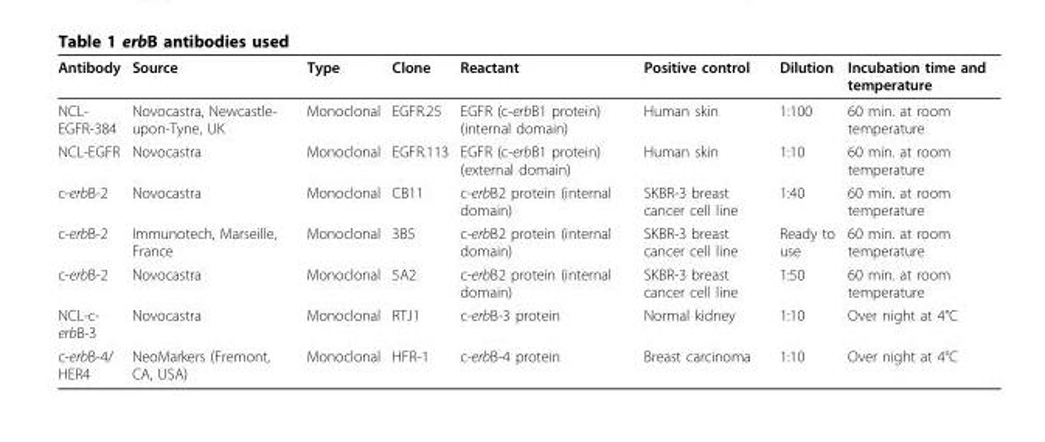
<table><thead><tr><td>Antibody</td><td>Source</td><td>Type</td><td>Clone</td><td>Reactant</td><td>Positive control</td><td>Dilution</td><td>Incubation time and temperature</td></tr></thead><tbody><tr><td>NCL- EGFR-384</td><td>Novocastra, Newcastle- upon-Tyne, UK</td><td>Monoclonal</td><td>EGFR.25</td><td>EGFR (c-erbB1 protein) (internal domain)</td><td>Human skin</td><td>1:100</td><td>60 min. at room temperature</td></tr><tr><td>NCL-EGFR</td><td>Novocastra</td><td>Monoclonal</td><td>EGFR.113</td><td>EGFR (c-erbB1 protein) (external domain)</td><td>Human skin</td><td>1:10</td><td>60 min. at room temperature</td></tr><tr><td>c-erbB-2</td><td>Novocastra</td><td>Monoclonal</td><td>CB11</td><td>c-erbB2 protein (internal domain)</td><td>SKBR-3 breast cancer cell line</td><td>1:40</td><td>60 min. at room temperature</td></tr><tr><td>c-erbB-2</td><td>Immunotech, Marseille, France</td><td>Monoclonal</td><td>3B5</td><td>c-erbB2 protein (internal domain)</td><td>SKBR-3 breast cancer cell line</td><td>Ready to use</td><td>60 min. at room temperature</td></tr><tr><td>c-erbB-2</td><td>Novocastra</td><td>Monoclonal</td><td>5A2</td><td>c-erbB2 protein (internal domain)</td><td>SKBR-3 breast cancer cell line</td><td>1:50</td><td>60 min. at room temperature</td></tr><tr><td>NCL-c- erbB-3</td><td>Novocastra</td><td>Monoclonal</td><td>RTJ1</td><td>c-erbB-3 protein</td><td>Normal kidney</td><td>1:10</td><td>Over night at 4°C</td></tr><tr><td>c-erbB-4/ HER4</td><td>NeoMarkers (Fremont, CA, USA)</td><td>Monoclonal</td><td>HFR-1</td><td>c-erbB-4 protein</td><td>Breast carcinoma</td><td>1:10</td><td>Over night at 4°C</td></tr></tbody></table>